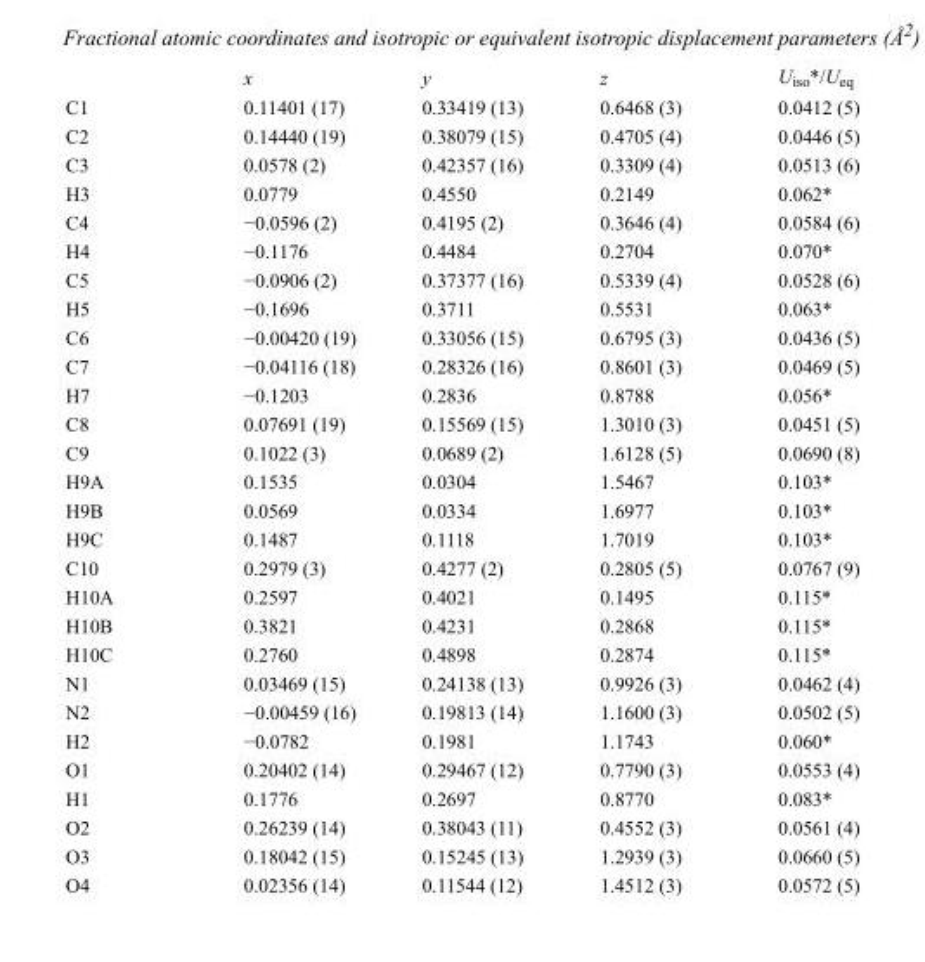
<table><thead><tr><td></td><td>x</td><td>y</td><td>z</td><td>U<sub>iso</sub>*/U<sub>eq</sub></td></tr></thead><tbody><tr><td>C1</td><td>0.11401 (17)</td><td>0.33419 (13)</td><td>0.6468 (3)</td><td>0.0412 (5)</td></tr><tr><td>C2</td><td>0.14440 (19)</td><td>0.38079 (15)</td><td>0.4705 (4)</td><td>0.0446 (5)</td></tr><tr><td>C3</td><td>0.0578 (2)</td><td>0.42357 (16)</td><td>0.3309 (4)</td><td>0.0513 (6)</td></tr><tr><td>H3</td><td>0.0779</td><td>0.4550</td><td>0.2149</td><td>0.062*</td></tr><tr><td>C4</td><td>−0.0596 (2)</td><td>0.4195 (2)</td><td>0.3646 (4)</td><td>0.0584 (6)</td></tr><tr><td>H4</td><td>−0.1176</td><td>0.4484</td><td>0.2704</td><td>0.070*</td></tr><tr><td>C5</td><td>−0.0906 (2)</td><td>0.37377 (16)</td><td>0.5339 (4)</td><td>0.0528 (6)</td></tr><tr><td>H5</td><td>−0.1696</td><td>0.3711</td><td>0.5531</td><td>0.063*</td></tr><tr><td>C6</td><td>−0.00420 (19)</td><td>0.33056 (15)</td><td>0.6795 (3)</td><td>0.0436 (5)</td></tr><tr><td>C7</td><td>−0.04116 (18)</td><td>0.28326 (16)</td><td>0.8601 (3)</td><td>0.0469 (5)</td></tr><tr><td>H7</td><td>−0.1203</td><td>0.2836</td><td>0.8788</td><td>0.056*</td></tr><tr><td>C8</td><td>0.07691 (19)</td><td>0.15569 (15)</td><td>1.3010 (3)</td><td>0.0451 (5)</td></tr><tr><td>C9</td><td>0.1022 (3)</td><td>0.0689 (2)</td><td>1.6128 (5)</td><td>0.0690 (8)</td></tr><tr><td>H9A</td><td>0.1535</td><td>0.0304</td><td>1.5467</td><td>0.103*</td></tr><tr><td>H9B</td><td>0.0569</td><td>0.0334</td><td>1.6977</td><td>0.103*</td></tr><tr><td>H9C</td><td>0.1487</td><td>0.1118</td><td>1.7019</td><td>0.103*</td></tr><tr><td>C10</td><td>0.2979 (3)</td><td>0.4277 (2)</td><td>0.2805 (5)</td><td>0.0767 (9)</td></tr><tr><td>H10A</td><td>0.2597</td><td>0.4021</td><td>0.1495</td><td>0.115*</td></tr><tr><td>H10B</td><td>0.3821</td><td>0.4231</td><td>0.2868</td><td>0.115*</td></tr><tr><td>H10C</td><td>0.2760</td><td>0.4898</td><td>0.2874</td><td>0.115*</td></tr><tr><td>N1</td><td>0.03469 (15)</td><td>0.24138 (13)</td><td>0.9926 (3)</td><td>0.0462 (4)</td></tr><tr><td>N2</td><td>−0.00459 (16)</td><td>0.19813 (14)</td><td>1.1600 (3)</td><td>0.0502 (5)</td></tr><tr><td>H2</td><td>−0.0782</td><td>0.1981</td><td>1.1743</td><td>0.060*</td></tr><tr><td>O1</td><td>0.20402 (14)</td><td>0.29467 (12)</td><td>0.7790 (3)</td><td>0.0553 (4)</td></tr><tr><td>H1</td><td>0.1776</td><td>0.2697</td><td>0.8770</td><td>0.083*</td></tr><tr><td>O2</td><td>0.26239 (14)</td><td>0.38043 (11)</td><td>0.4552 (3)</td><td>0.0561 (4)</td></tr><tr><td>O3</td><td>0.18042 (15)</td><td>0.15245 (13)</td><td>1.2939 (3)</td><td>0.0660 (5)</td></tr><tr><td>O4</td><td>0.02356 (14)</td><td>0.11544 (12)</td><td>1.4512 (3)</td><td>0.0572 (5)</td></tr></tbody></table>